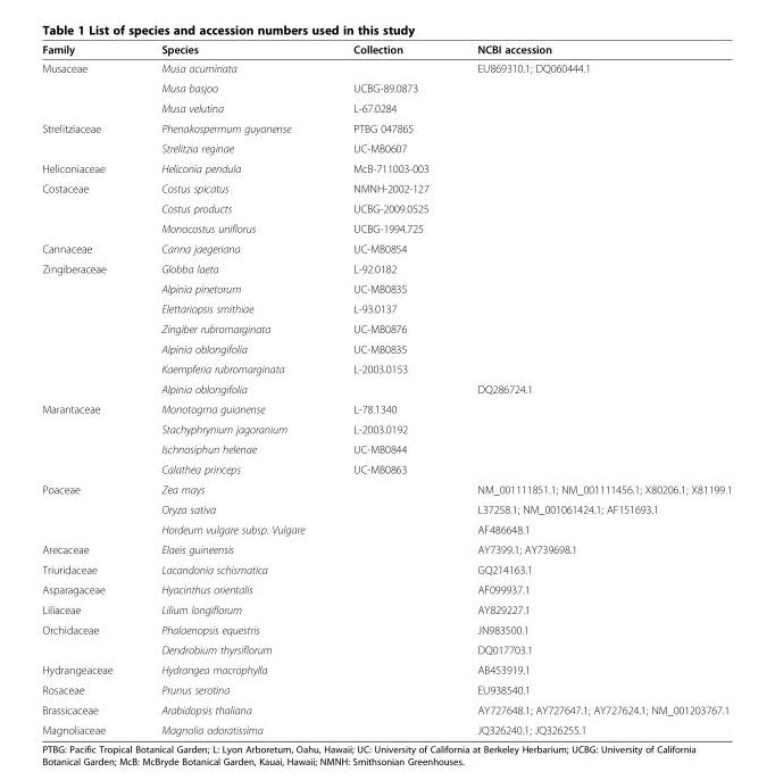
<table><thead><tr><td>Family</td><td>Species</td><td>Collection</td><td>NCBI accession</td></tr></thead><tbody><tr><td rowspan="3">Musaceae</td><td>Musa acuminata</td><td></td><td>EU869310.1; DQ060444.1</td></tr><tr><td>Musa basjoo</td><td>UCBG-89.0873</td><td></td></tr><tr><td>Musa velutina</td><td>L-67.0284</td><td></td></tr><tr><td rowspan="2">Strelitziaceae</td><td>Phenakospermum guyanense</td><td>PTBG 047865</td><td></td></tr><tr><td>Strelitzia reginae</td><td>UC-MB0607</td><td></td></tr><tr><td>Heliconiaceae</td><td>Heliconia pendula</td><td>McB-711003-003</td><td></td></tr><tr><td rowspan="3">Costaceae</td><td>Costus spicatus</td><td>NMNH-2002-127</td><td></td></tr><tr><td>Costus products</td><td>UCBG-2009.0525</td><td></td></tr><tr><td>Monocostus uniflorus</td><td>UCBG-1994.725</td><td></td></tr><tr><td>Cannaceae</td><td>Canna jaegeriana</td><td>UC-MB0854</td><td></td></tr><tr><td rowspan="7">Zingiberaceae</td><td>Globba laeta</td><td>L-92.0182</td><td></td></tr><tr><td>Alpinia pinetorum</td><td>UC-MB0835</td><td></td></tr><tr><td>Elettariopsis smithiae</td><td>L-93.0137</td><td></td></tr><tr><td>Zingiber rubromarginata</td><td>UC-MB0876</td><td></td></tr><tr><td>Alpinia oblongifolia</td><td>UC-MB0835</td><td></td></tr><tr><td>Kaempferia rubromarginata</td><td>L-2003.0153</td><td></td></tr><tr><td>Alpinia oblongifolia</td><td></td><td>DQ286724.1</td></tr><tr><td rowspan="4">Marantaceae</td><td>Monotogma guianense</td><td>L-78.1340</td><td></td></tr><tr><td>Stachyphrynium jagoranium</td><td>L-2003.0192</td><td></td></tr><tr><td>Ischnosiphun helenae</td><td>UC-MB0844</td><td></td></tr><tr><td>Calathea princeps</td><td>UC-MB0863</td><td></td></tr><tr><td rowspan="3">Poaceae</td><td>Zea mays</td><td></td><td>NM_001111851.1; NM_001111456.1; X80206.1; X81199.1</td></tr><tr><td>Oryza sativa</td><td></td><td>L37258.1; NM_001061424.1; AF151693.1</td></tr><tr><td>Hordeum vulgare subsp. Vulgare</td><td></td><td>AF486648.1</td></tr><tr><td>Arecaceae</td><td>Elaeis guineensis</td><td></td><td>AY7399.1; AY739698.1</td></tr><tr><td>Triuridaceae</td><td>Lacandonia schismatica</td><td></td><td>GQ214163.1</td></tr><tr><td>Asparagaceae</td><td>Hyacinthus orientalis</td><td></td><td>AF099937.1</td></tr><tr><td>Liliaceae</td><td>Lilium longiflorum</td><td></td><td>AY829227.1</td></tr><tr><td rowspan="2">Orchidaceae</td><td>Phalaenopsis equestris</td><td></td><td>JN983500.1</td></tr><tr><td>Dendrobium thyrsiflorum</td><td></td><td>DQ017703.1</td></tr><tr><td>Hydrangeaceae</td><td>Hydrangea macrophylla</td><td></td><td>AB453919.1</td></tr><tr><td>Rosaceae</td><td>Prunus serotina</td><td></td><td>EU938540.1</td></tr><tr><td>Brassicaceae</td><td>Arabidopsis thaliana</td><td></td><td>AY727648.1; AY727647.1; AY727624.1; NM_001203767.1</td></tr><tr><td>Magnoliaceae</td><td>Magnolia odoratissima</td><td></td><td>JQ326240.1; JQ326255.1</td></tr></tbody></table>